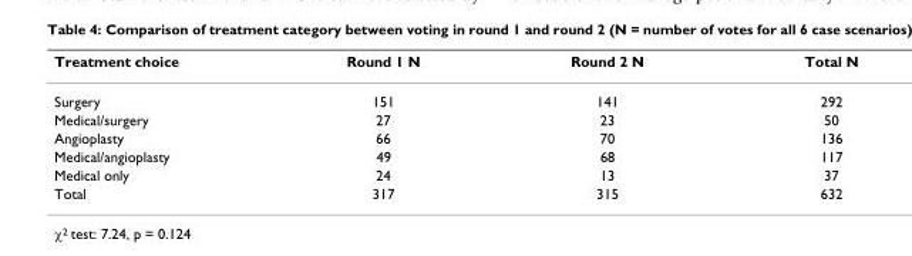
<table><thead><tr><td>Treatment choice</td><td>Round 1 N</td><td>Round 2 N</td><td>Total N</td></tr></thead><tbody><tr><td>Surgery</td><td>151</td><td>141</td><td>292</td></tr><tr><td>Medical/surgery</td><td>27</td><td>23</td><td>50</td></tr><tr><td>Angioplasty</td><td>66</td><td>70</td><td>136</td></tr><tr><td>Medical/angioplasty</td><td>49</td><td>68</td><td>117</td></tr><tr><td>Medical only</td><td>24</td><td>13</td><td>37</td></tr><tr><td>Total</td><td>317</td><td>315</td><td>632</td></tr></tbody></table>